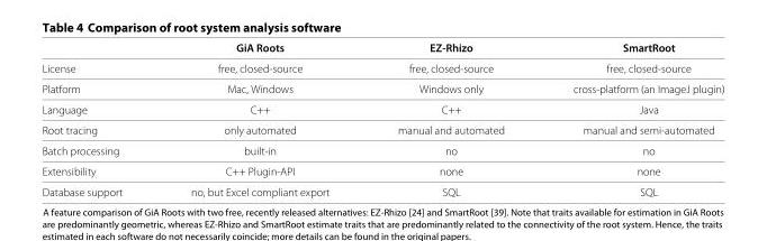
<table><thead><tr><td></td><td>GiA Roots</td><td>EZ-Rhizo</td><td>SmartRoot</td></tr></thead><tbody><tr><td>License</td><td>free, closed-source</td><td>free, closed-source</td><td>free, closed-source</td></tr><tr><td>Platform</td><td>Mac, Windows</td><td>Windows only</td><td>cross-platform (an ImageJ plugin)</td></tr><tr><td>Language</td><td>C++</td><td>C++</td><td>Java</td></tr><tr><td>Root tracing</td><td>only automated</td><td>manual and automated</td><td>manual and semi-automated</td></tr><tr><td>Batch processing</td><td>built-in</td><td>no</td><td>no</td></tr><tr><td>Extensibility</td><td>C++ Plugin-API</td><td>none</td><td>none</td></tr><tr><td>Database support</td><td>no, but Excel compliant export</td><td>SQL</td><td>SQL</td></tr></tbody></table>